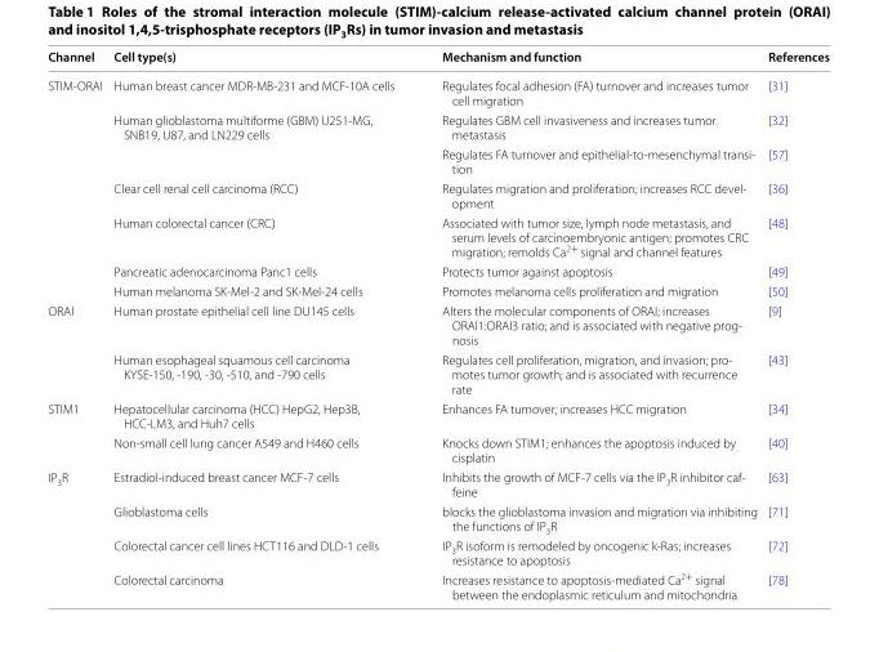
<table><thead><tr><td>Channel</td><td>Cell type(s)</td><td>Mechanism and function</td><td>References</td></tr></thead><tbody><tr><td rowspan="7">STIM‑ORAI</td><td>Human breast cancer MDR‑MB‑231 and MCF‑10A cells</td><td>Regulates focal adhesion (FA) turnover and increases tumor cell migration</td><td>[31]</td></tr><tr><td rowspan="2">Human glioblastoma multiforme (GBM) U251‑MG, SNB19, U87, and LN229 cells</td><td>Regulates GBM cell invasiveness and increases tumor metastasis</td><td>[32]</td></tr><tr><td>Regulates FA turnover and epithelial‑to‑mesenchymal transi‑ tion</td><td>[57]</td></tr><tr><td>Clear cell renal cell carcinoma (RCC)</td><td>Regulates migration and proliferation; increases RCC devel‑ opment</td><td>[36]</td></tr><tr><td>Human colorectal cancer (CRC)</td><td>Associated with tumor size, lymph node metastasis, and serum levels of carcinoembryonic antigen; promotes CRC migration; remolds Ca<sup>2+</sup> signal and channel features</td><td>[48]</td></tr><tr><td>Pancreatic adenocarcinoma Panc1 cells</td><td>Protects tumor against apoptosis</td><td>[49]</td></tr><tr><td>Human melanoma SK‑Mel‑2 and SK‑Mel‑24 cells</td><td>Promotes melanoma cells proliferation and migration</td><td>[50]</td></tr><tr><td rowspan="2">ORAI</td><td>Human prostate epithelial cell line DU145 cells</td><td>Alters the molecular components of ORAI; increases ORAI1:ORAI3 ratio; and is associated with negative prog‑ nosis</td><td>[9]</td></tr><tr><td>Human esophageal squamous cell carcinoma KYSE‑150, ‑190, ‑30, ‑510, and ‑790 cells</td><td>Regulates cell proliferation, migration, and invasion; pro‑ motes tumor growth; and is associated with recurrence rate</td><td>[43]</td></tr><tr><td rowspan="2">STIM1</td><td>Hepatocellular carcinoma (HCC) HepG2, Hep3B, HCC‑LM3, and Huh7 cells</td><td>Enhances FA turnover; increases HCC migration</td><td>[34]</td></tr><tr><td>Non‑small cell lung cancer A549 and H460 cells</td><td>Knocks down STIM1; enhances the apoptosis induced by cisplatin</td><td>[40]</td></tr><tr><td rowspan="4">IP<sub>3</sub>R</td><td>Estradiol‑induced breast cancer MCF‑7 cells</td><td>Inhibits the growth of MCF‑7 cells via the IP3R inhibitor caf‑ feine</td><td>[63]</td></tr><tr><td>Glioblastoma cells</td><td>blocks the glioblastoma invasion and migration via inhibiting the functions of IP<sub>3</sub>R</td><td>[71]</td></tr><tr><td>Colorectal cancer cell lines HCT116 and DLD‑1 cells</td><td>IP<sub>3</sub>R isoform is remodeled by oncogenic k‑Ras; increases resistance to apoptosis</td><td>[72]</td></tr><tr><td>Colorectal carcinoma</td><td>Increases resistance to apoptosis‑mediated Ca<sup>2+</sup> signal between the endoplasmic reticulum and mitochondria</td><td>[78]</td></tr></tbody></table>